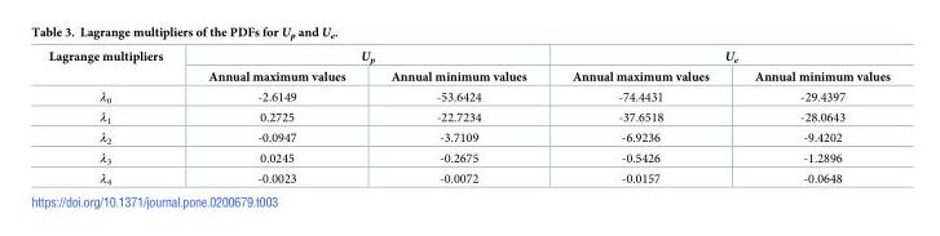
<table><thead><tr><td rowspan="2">Lagrange multipliers</td><td colspan="2">U<sub>p</sub></td><td colspan="2">U<sub>e</sub></td></tr><tr><td>Annual maximum values</td><td>Annual minimum values</td><td>Annual maximum values</td><td>Annual minimum values</td></tr></thead><tbody><tr><td>λ<sub>0</sub></td><td>-2.6149</td><td>-53.6424</td><td>-74.4431</td><td>-29.4397</td></tr><tr><td>λ<sub>1</sub></td><td>0.2725</td><td>-22.7234</td><td>-37.6518</td><td>-28.0643</td></tr><tr><td>λ<sub>2</sub></td><td>-0.0947</td><td>-3.7109</td><td>-6.9236</td><td>-9.4202</td></tr><tr><td>λ<sub>3</sub></td><td>0.0245</td><td>-0.2675</td><td>-0.5426</td><td>-1.2896</td></tr><tr><td>λ<sub>4</sub></td><td>-0.0023</td><td>-0.0072</td><td>-0.0157</td><td>-0.0648</td></tr></tbody></table>